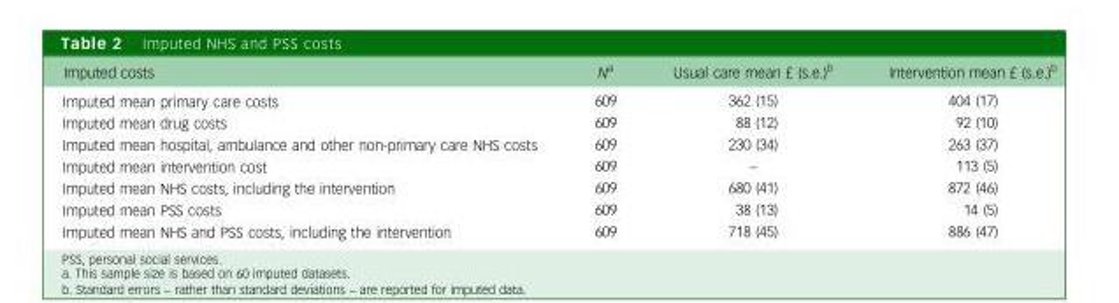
<table><thead><tr><td>Imputed costs</td><td>N<sup>a</sup></td><td>Usual care mean £ (s.e.)<sup>b</sup></td><td>Intervention mean £ (s.e.)<sup>b</sup></td></tr></thead><tbody><tr><td>Imputed mean primary care costs</td><td>609</td><td>362 (15)</td><td>404 (17)</td></tr><tr><td>Imputed mean drug costs</td><td>609</td><td>88 (12)</td><td>92 (10)</td></tr><tr><td>Imputed mean hospital, ambulance and other non-primary care NHS costs</td><td>609</td><td>230 (34)</td><td>263 (37)</td></tr><tr><td>Imputed mean intervention cost</td><td>609</td><td>–</td><td>113 (5)</td></tr><tr><td>Imputed mean NHS costs, including the intervention</td><td>609</td><td>680 (41)</td><td>872 (46)</td></tr><tr><td>Imputed mean PSS costs</td><td>609</td><td>38 (13)</td><td>14 (5)</td></tr><tr><td>Imputed mean NHS and PSS costs, including the intervention</td><td>609</td><td>718 (45)</td><td>886 (47)</td></tr></tbody></table>